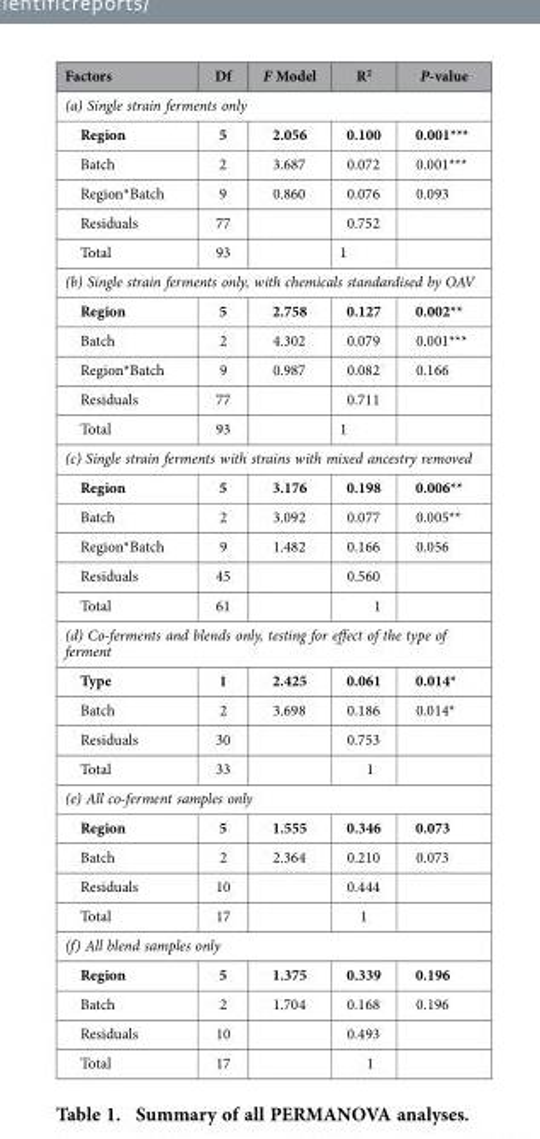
<table><thead><tr><td>Factors</td><td>Df</td><td>F Model</td><td>R<sup>2</sup></td><td>P-value</td></tr></thead><tbody><tr><td colspan="5">(a) Single strain ferments only</td></tr><tr><td>Region</td><td>5</td><td>2.056</td><td>0.100</td><td>0.001***</td></tr><tr><td>Batch</td><td>2</td><td>3.687</td><td>0.072</td><td>0.001***</td></tr><tr><td>Region*Batch</td><td>9</td><td>0.860</td><td>0.076</td><td>0.093</td></tr><tr><td>Residuals</td><td>77</td><td></td><td>0.752</td><td></td></tr><tr><td>Total</td><td>93</td><td></td><td>1</td><td></td></tr><tr><td colspan="5">(b) Single strain ferments only, with chemicals standardised by OAV</td></tr><tr><td>Region</td><td>5</td><td>2.758</td><td>0.127</td><td>0.002**</td></tr><tr><td>Batch</td><td>2</td><td>4.302</td><td>0.079</td><td>0.001***</td></tr><tr><td>Region*Batch</td><td>9</td><td>0.987</td><td>0.082</td><td>0.166</td></tr><tr><td>Residuals</td><td>77</td><td></td><td>0.711</td><td></td></tr><tr><td>Total</td><td>93</td><td></td><td>1</td><td></td></tr><tr><td colspan="5">(c) Single strain ferments with strains with mixed ancestry removed</td></tr><tr><td>Region</td><td>5</td><td>3.176</td><td>0.198</td><td>0.006**</td></tr><tr><td>Batch</td><td>2</td><td>3.092</td><td>0.077</td><td>0.005**</td></tr><tr><td>Region*Batch</td><td>9</td><td>1.482</td><td>0.166</td><td>0.056</td></tr><tr><td>Residuals</td><td>45</td><td></td><td>0.560</td><td></td></tr><tr><td>Total</td><td>61</td><td></td><td>1</td><td></td></tr><tr><td colspan="5">(d) Co-ferments and blends only, testing for effect of the type of ferment</td></tr><tr><td>Type</td><td>1</td><td>2.425</td><td>0.061</td><td>0.014*</td></tr><tr><td>Batch</td><td>2</td><td>3.698</td><td>0.186</td><td>0.014*</td></tr><tr><td>Residuals</td><td>30</td><td></td><td>0.753</td><td></td></tr><tr><td>Total</td><td>33</td><td></td><td>1</td><td></td></tr><tr><td colspan="5">(e) All co-ferment samples only</td></tr><tr><td>Region</td><td>5</td><td>1.555</td><td>0.346</td><td>0.073</td></tr><tr><td>Batch</td><td>2</td><td>2.364</td><td>0.210</td><td>0.073</td></tr><tr><td>Residuals</td><td>10</td><td></td><td>0.444</td><td></td></tr><tr><td>Total</td><td>17</td><td></td><td>1</td><td></td></tr><tr><td colspan="5">(f) All blend samples only</td></tr><tr><td>Region</td><td>5</td><td>1.375</td><td>0.339</td><td>0.196</td></tr><tr><td>Batch</td><td>2</td><td>1.704</td><td>0.168</td><td>0.196</td></tr><tr><td>Residuals</td><td>10</td><td></td><td>0.493</td><td></td></tr><tr><td>Total</td><td>17</td><td></td><td>1</td><td></td></tr></tbody></table>